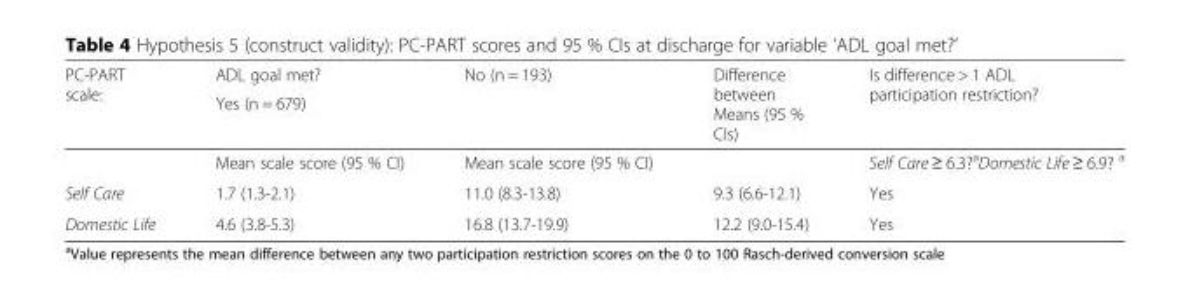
<table><thead><tr><td rowspan="2">PC-PART scale:</td><td rowspan="2">ADL goal met? Yes (n = 679)</td><td rowspan="2">No (n = 193)</td><td rowspan="2">Difference between Means (95 % CIs)</td><td rowspan="2">Is difference &gt; 1 ADL participation restriction?</td></tr><tr></tr></thead><tbody><tr><td></td><td>Mean scale score (95 % CI)</td><td>Mean scale score (95 % CI)</td><td></td><td>Self Care ≥ 6.3?<sup>a</sup>Domestic Life ≥ 6.9? <sup>a</sup></td></tr><tr><td>Self Care</td><td>1.7 (1.3-2.1)</td><td>11.0 (8.3-13.8)</td><td>9.3 (6.6-12.1)</td><td>Yes</td></tr><tr><td>Domestic Life</td><td>4.6 (3.8-5.3)</td><td>16.8 (13.7-19.9)</td><td>12.2 (9.0-15.4)</td><td>Yes</td></tr></tbody></table>